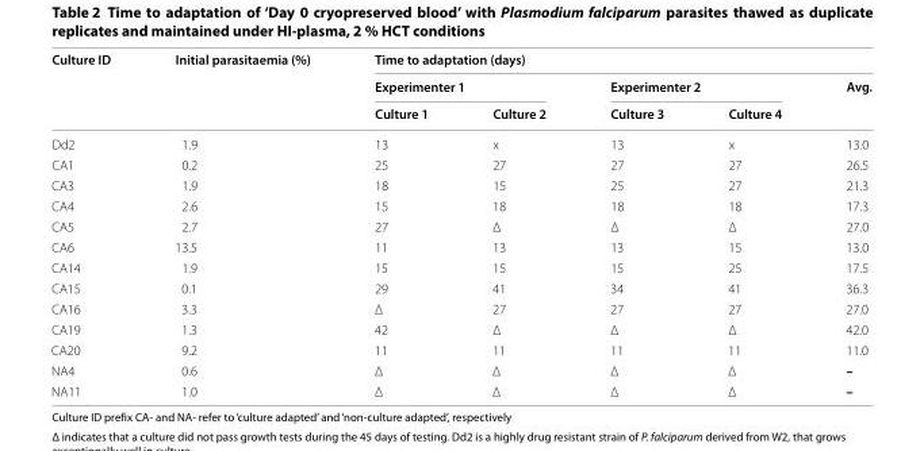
<table><thead><tr><td rowspan="3">Culture ID</td><td rowspan="3">Initial parasitaemia (%)</td><td colspan="5">Time to adaptation (days)</td></tr><tr><td colspan="2">Experimenter 1</td><td colspan="2">Experimenter 2</td><td rowspan="2">Avg.</td></tr><tr><td>Culture 1</td><td>Culture 2</td><td>Culture 3</td><td>Culture 4</td></tr></thead><tbody><tr><td>Dd2</td><td>1.9</td><td>13</td><td>x</td><td>13</td><td>x</td><td>13.0</td></tr><tr><td>CA1</td><td>0.2</td><td>25</td><td>27</td><td>27</td><td>27</td><td>26.5</td></tr><tr><td>CA3</td><td>1.9</td><td>18</td><td>15</td><td>25</td><td>27</td><td>21.3</td></tr><tr><td>CA4</td><td>2.6</td><td>15</td><td>18</td><td>18</td><td>18</td><td>17.3</td></tr><tr><td>CA5</td><td>2.7</td><td>27</td><td>Δ</td><td>Δ</td><td>Δ</td><td>27.0</td></tr><tr><td>CA6</td><td>13.5</td><td>11</td><td>13</td><td>13</td><td>15</td><td>13.0</td></tr><tr><td>CA14</td><td>1.9</td><td>15</td><td>15</td><td>15</td><td>25</td><td>17.5</td></tr><tr><td>CA15</td><td>0.1</td><td>29</td><td>41</td><td>34</td><td>41</td><td>36.3</td></tr><tr><td>CA16</td><td>3.3</td><td>Δ</td><td>27</td><td>27</td><td>27</td><td>27.0</td></tr><tr><td>CA19</td><td>1.3</td><td>42</td><td>Δ</td><td>Δ</td><td>Δ</td><td>42.0</td></tr><tr><td>CA20</td><td>9.2</td><td>11</td><td>11</td><td>11</td><td>11</td><td>11.0</td></tr><tr><td>NA4</td><td>0.6</td><td>Δ</td><td>Δ</td><td>Δ</td><td>Δ</td><td>–</td></tr><tr><td>NA11</td><td>1.0</td><td>Δ</td><td>Δ</td><td>Δ</td><td>Δ</td><td>–</td></tr></tbody></table>